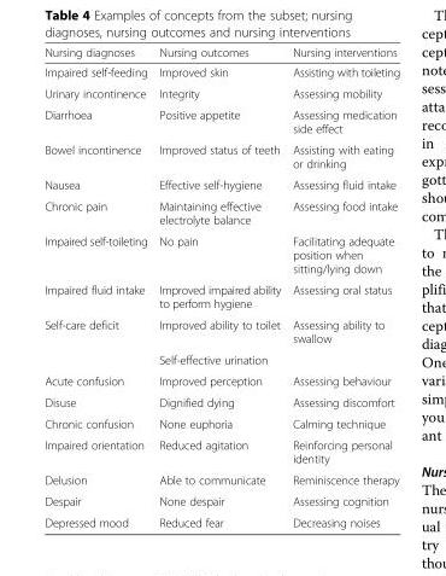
<table><thead><tr><td>Nursing diagnoses</td><td>Nursing outcomes</td><td>Nursing interventions</td></tr></thead><tbody><tr><td>Impaired self-feeding</td><td>Improved skin</td><td>Assisting with toileting</td></tr><tr><td>Urinary incontinence</td><td>Integrity</td><td>Assessing mobility</td></tr><tr><td>Diarrhoea</td><td>Positive appetite</td><td>Assessing medication side effect</td></tr><tr><td>Bowel incontinence</td><td>Improved status of teeth</td><td>Assisting with eating or drinking</td></tr><tr><td>Nausea</td><td>Effective self-hygiene</td><td>Assessing fluid intake</td></tr><tr><td>Chronic pain</td><td>Maintaining effective electrolyte balance</td><td>Assessing food intake</td></tr><tr><td>Impaired self-toileting</td><td>No pain</td><td>Facilitating adequate position when sitting/lying down</td></tr><tr><td>Impaired fluid intake</td><td>Improved impaired ability to perform hygiene</td><td>Assessing oral status</td></tr><tr><td rowspan="2">Self-care deficit</td><td>Improved ability to toilet</td><td>Assessing ability to swallow</td></tr><tr><td>Self-effective urination</td><td></td></tr><tr><td>Acute confusion</td><td>Improved perception</td><td>Assessing behaviour</td></tr><tr><td>Disuse</td><td>Dignified dying</td><td>Assessing discomfort</td></tr><tr><td>Chronic confusion</td><td>None euphoria</td><td>Calming technique</td></tr><tr><td>Impaired orientation</td><td>Reduced agitation</td><td>Reinforcing personal identity</td></tr><tr><td>Delusion</td><td>Able to communicate</td><td>Reminiscence therapy</td></tr><tr><td>Despair</td><td>None despair</td><td>Assessing cognition</td></tr><tr><td>Depressed mood</td><td>Reduced fear</td><td>Decreasing noises</td></tr></tbody></table>